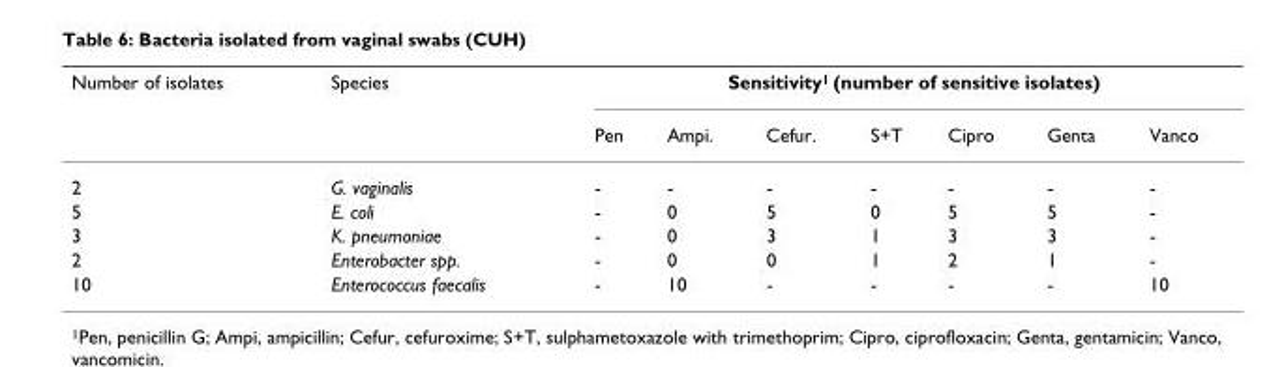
<table><thead><tr><td rowspan="2">Number of isolates</td><td rowspan="2">Species</td><td colspan="7">Sensitivity<sup>1</sup> (number of sensitive isolates)</td></tr><tr><td>Pen</td><td>Ampi.</td><td>Cefur.</td><td>S+T</td><td>Cipro</td><td>Genta</td><td>Vanco</td></tr></thead><tbody><tr><td>2</td><td>G. vaginalis</td><td>-</td><td>-</td><td>-</td><td>-</td><td>-</td><td>-</td><td>-</td></tr><tr><td>5</td><td>E. coli</td><td>-</td><td>0</td><td>5</td><td>0</td><td>5</td><td>5</td><td>-</td></tr><tr><td>3</td><td>K. pneumoniae</td><td>-</td><td>0</td><td>3</td><td>1</td><td>3</td><td>3</td><td>-</td></tr><tr><td>2</td><td>Enterobacter spp.</td><td>-</td><td>0</td><td>0</td><td>1</td><td>2</td><td>1</td><td>-</td></tr><tr><td>10</td><td>Enterococcus faecalis</td><td>-</td><td>10</td><td>-</td><td>-</td><td>-</td><td>-</td><td>10</td></tr></tbody></table>